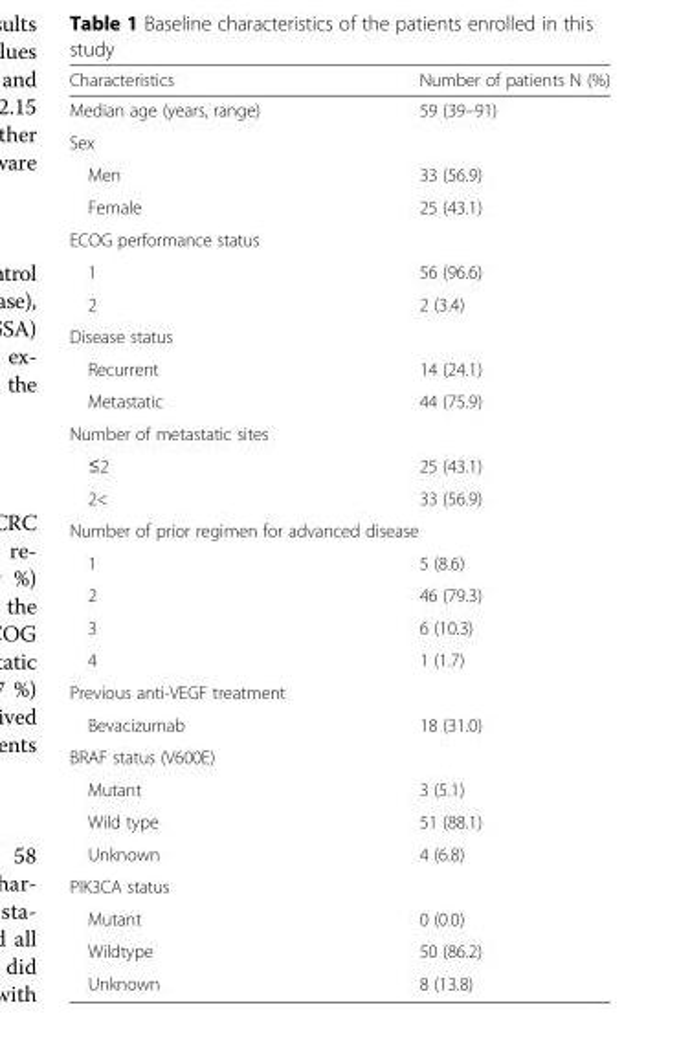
<table><thead><tr><td>Characteristics</td><td>Number of patients N (%)</td></tr></thead><tbody><tr><td>Median age (years, range)</td><td>59 (39–91)</td></tr><tr><td colspan="2">Sex</td></tr><tr><td>Men</td><td>33 (56.9)</td></tr><tr><td>Female</td><td>25 (43.1)</td></tr><tr><td colspan="2">ECOG performance status</td></tr><tr><td>1</td><td>56 (96.6)</td></tr><tr><td>2</td><td>2 (3.4)</td></tr><tr><td colspan="2">Disease status</td></tr><tr><td>Recurrent</td><td>14 (24.1)</td></tr><tr><td>Metastatic</td><td>44 (75.9)</td></tr><tr><td colspan="2">Number of metastatic sites</td></tr><tr><td>≤2</td><td>25 (43.1)</td></tr><tr><td>2&lt;</td><td>33 (56.9)</td></tr><tr><td colspan="2">Number of prior regimen for advanced disease</td></tr><tr><td>1</td><td>5 (8.6)</td></tr><tr><td>2</td><td>46 (79.3)</td></tr><tr><td>3</td><td>6 (10.3)</td></tr><tr><td>4</td><td>1 (1.7)</td></tr><tr><td colspan="2">Previous anti-VEGF treatment</td></tr><tr><td>Bevacizumab</td><td>18 (31.0)</td></tr><tr><td colspan="2">BRAF status (V600E)</td></tr><tr><td>Mutant</td><td>3 (5.1)</td></tr><tr><td>Wild type</td><td>51 (88.1)</td></tr><tr><td>Unknown</td><td>4 (6.8)</td></tr><tr><td colspan="2">PIK3CA status</td></tr><tr><td>Mutant</td><td>0 (0.0)</td></tr><tr><td>Wildtype</td><td>50 (86.2)</td></tr><tr><td>Unknown</td><td>8 (13.8)</td></tr></tbody></table>